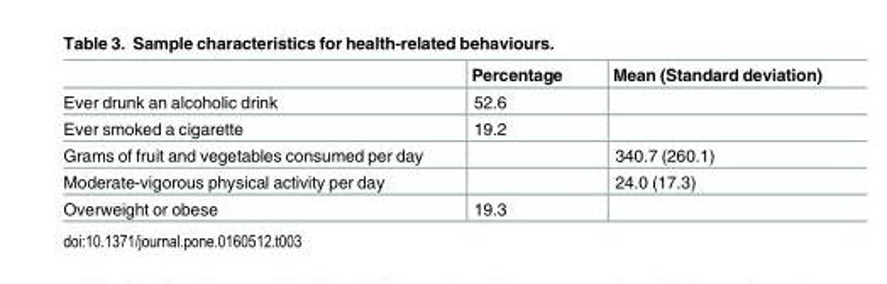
<table><thead><tr><td></td><td>Percentage</td><td>Mean (Standard deviation)</td></tr></thead><tbody><tr><td>Ever drunk an alcoholic drink</td><td>52.6</td><td></td></tr><tr><td>Ever smoked a cigarette</td><td>19.2</td><td></td></tr><tr><td>Grams of fruit and vegetables consumed per day</td><td></td><td>340.7 (260.1)</td></tr><tr><td>Moderate-vigorous physical activity per day</td><td></td><td>24.0 (17.3)</td></tr><tr><td>Overweight or obese</td><td>19.3</td><td></td></tr></tbody></table>